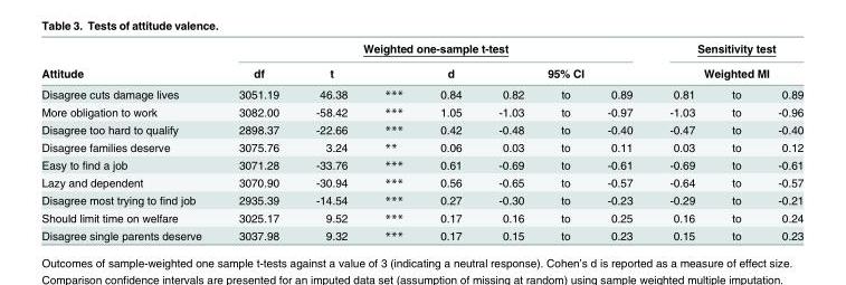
<table><thead><tr><td rowspan="3">Attitude Disagree cuts damage lives</td><td colspan="7">Weighted one-sample t-test</td><td rowspan="2" colspan="3">Sensitivity test Weighted MI</td></tr><tr><td rowspan="2">df 3051.19</td><td rowspan="2">t 46.38</td><td rowspan="2">***</td><td rowspan="2">d 0.84</td><td colspan="3">95% CI</td></tr><tr><td>0.82</td><td>to</td><td>0.89</td><td>0.81</td><td>to</td><td>0.89</td></tr></thead><tbody><tr><td>More obligation to work</td><td>3082.00</td><td>-58.42</td><td>***</td><td>1.05</td><td>-1.03</td><td>to</td><td>-0.97</td><td>-1.03</td><td>to</td><td>-0.96</td></tr><tr><td>Disagree too hard to qualify</td><td>2898.37</td><td>-22.66</td><td>***</td><td>0.42</td><td>-0.48</td><td>to</td><td>-0.40</td><td>-0.47</td><td>to</td><td>-0.40</td></tr><tr><td>Disagree families deserve</td><td>3075.76</td><td>3.24</td><td>**</td><td>0.06</td><td>0.03</td><td>to</td><td>0.11</td><td>0.03</td><td>to</td><td>0.12</td></tr><tr><td>Easy to find a job</td><td>3071.28</td><td>-33.76</td><td>***</td><td>0.61</td><td>-0.69</td><td>to</td><td>-0.61</td><td>-0.69</td><td>to</td><td>-0.61</td></tr><tr><td>Lazy and dependent</td><td>3070.90</td><td>-30.94</td><td>***</td><td>0.56</td><td>-0.65</td><td>to</td><td>-0.57</td><td>-0.64</td><td>to</td><td>-0.57</td></tr><tr><td>Disagree most trying to find job</td><td>2935.39</td><td>-14.54</td><td>***</td><td>0.27</td><td>-0.30</td><td>to</td><td>-0.23</td><td>-0.29</td><td>to</td><td>-0.21</td></tr><tr><td>Should limit time on welfare</td><td>3025.17</td><td>9.52</td><td>***</td><td>0.17</td><td>0.16</td><td>to</td><td>0.25</td><td>0.16</td><td>to</td><td>0.24</td></tr><tr><td>Disagree single parents deserve</td><td>3037.98</td><td>9.32</td><td>***</td><td>0.17</td><td>0.15</td><td>to</td><td>0.23</td><td>0.15</td><td>to</td><td>0.23</td></tr></tbody></table>